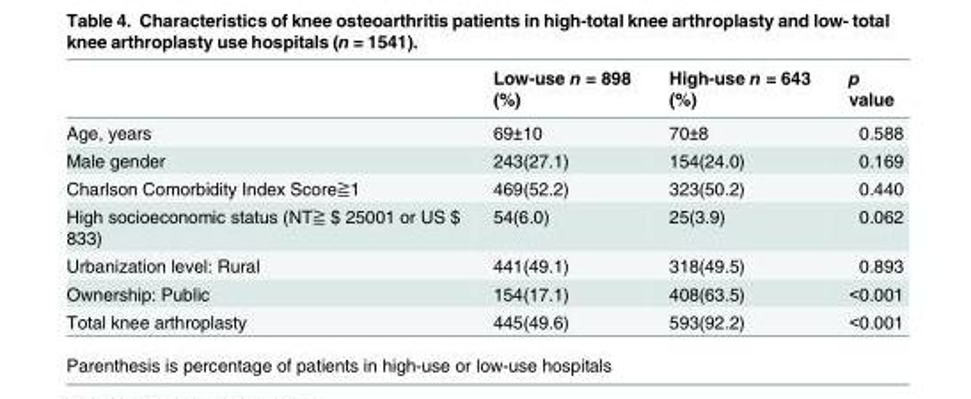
<table><thead><tr><td></td><td>Low-use n = 898 (%)</td><td>High-use n = 643 (%)</td><td>p value</td></tr></thead><tbody><tr><td>Age, years</td><td>69±10</td><td>70±8</td><td>0.588</td></tr><tr><td>Male gender</td><td>243(27.1)</td><td>154(24.0)</td><td>0.169</td></tr><tr><td>Charlson Comorbidity Index Score≧1</td><td>469(52.2)</td><td>323(50.2)</td><td>0.440</td></tr><tr><td>High socioeconomic status (NT≧ $ 25001 or US $ 833)</td><td>54(6.0)</td><td>25(3.9)</td><td>0.062</td></tr><tr><td>Urbanization level: Rural</td><td>441(49.1)</td><td>318(49.5)</td><td>0.893</td></tr><tr><td>Ownership: Public</td><td>154(17.1)</td><td>408(63.5)</td><td>&lt;0.001</td></tr><tr><td>Total knee arthroplasty</td><td>445(49.6)</td><td>593(92.2)</td><td>&lt;0.001</td></tr></tbody></table>